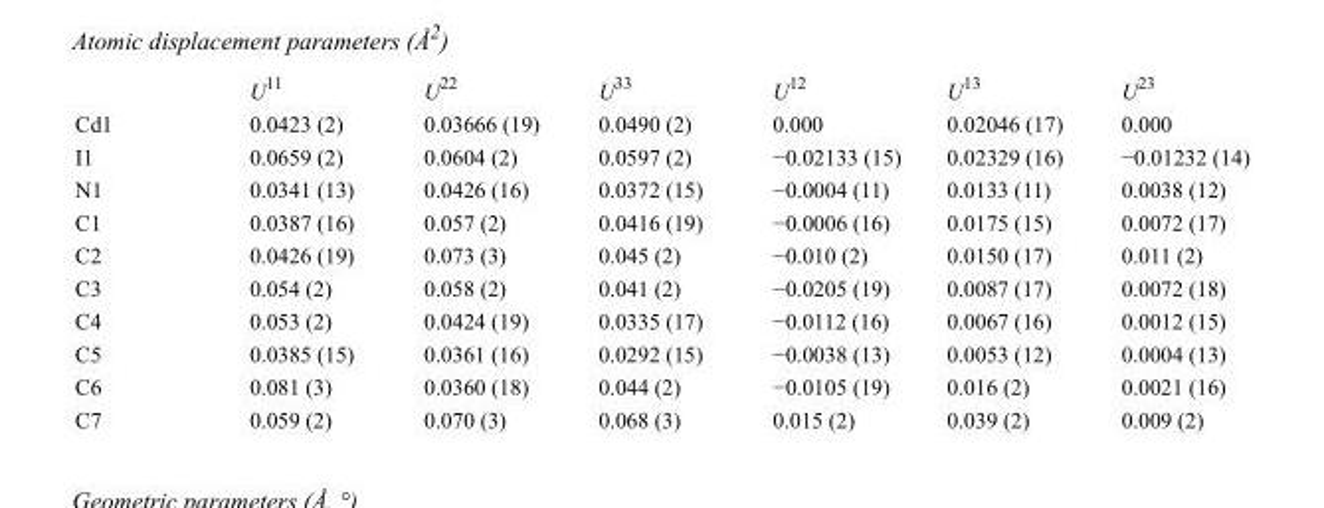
<table><thead><tr><td></td><td>U<sup>11</sup></td><td>U<sup>22</sup></td><td>U<sup>33</sup></td><td>U<sup>12</sup></td><td>U<sup>13</sup></td><td>U<sup>23</sup></td></tr></thead><tbody><tr><td>Cd1</td><td>0.0423 (2)</td><td>0.03666 (19)</td><td>0.0490 (2)</td><td>0.000</td><td>0.02046 (17)</td><td>0.000</td></tr><tr><td>I1</td><td>0.0659 (2)</td><td>0.0604 (2)</td><td>0.0597 (2)</td><td>−0.02133 (15)</td><td>0.02329 (16)</td><td>−0.01232 (14)</td></tr><tr><td>N1</td><td>0.0341 (13)</td><td>0.0426 (16)</td><td>0.0372 (15)</td><td>−0.0004 (11)</td><td>0.0133 (11)</td><td>0.0038 (12)</td></tr><tr><td>C1</td><td>0.0387 (16)</td><td>0.057 (2)</td><td>0.0416 (19)</td><td>−0.0006 (16)</td><td>0.0175 (15)</td><td>0.0072 (17)</td></tr><tr><td>C2</td><td>0.0426 (19)</td><td>0.073 (3)</td><td>0.045 (2)</td><td>−0.010 (2)</td><td>0.0150 (17)</td><td>0.011 (2)</td></tr><tr><td>C3</td><td>0.054 (2)</td><td>0.058 (2)</td><td>0.041 (2)</td><td>−0.0205 (19)</td><td>0.0087 (17)</td><td>0.0072 (18)</td></tr><tr><td>C4</td><td>0.053 (2)</td><td>0.0424 (19)</td><td>0.0335 (17)</td><td>−0.0112 (16)</td><td>0.0067 (16)</td><td>0.0012 (15)</td></tr><tr><td>C5</td><td>0.0385 (15)</td><td>0.0361 (16)</td><td>0.0292 (15)</td><td>−0.0038 (13)</td><td>0.0053 (12)</td><td>0.0004 (13)</td></tr><tr><td>C6</td><td>0.081 (3)</td><td>0.0360 (18)</td><td>0.044 (2)</td><td>−0.0105 (19)</td><td>0.016 (2)</td><td>0.0021 (16)</td></tr><tr><td>C7</td><td>0.059 (2)</td><td>0.070 (3)</td><td>0.068 (3)</td><td>0.015 (2)</td><td>0.039 (2)</td><td>0.009 (2)</td></tr></tbody></table>